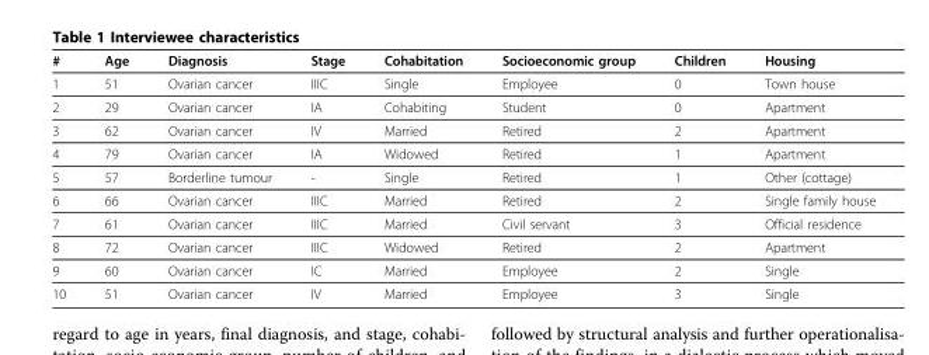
<table><thead><tr><td>#</td><td>Age</td><td>Diagnosis</td><td>Stage</td><td>Cohabitation</td><td>Socioeconomic group</td><td>Children</td><td>Housing</td></tr></thead><tbody><tr><td>1</td><td>51</td><td>Ovarian cancer</td><td>IIIC</td><td>Single</td><td>Employee</td><td>0</td><td>Town house</td></tr><tr><td>2</td><td>29</td><td>Ovarian cancer</td><td>IA</td><td>Cohabiting</td><td>Student</td><td>0</td><td>Apartment</td></tr><tr><td>3</td><td>62</td><td>Ovarian cancer</td><td>IV</td><td>Married</td><td>Retired</td><td>2</td><td>Apartment</td></tr><tr><td>4</td><td>79</td><td>Ovarian cancer</td><td>IA</td><td>Widowed</td><td>Retired</td><td>1</td><td>Apartment</td></tr><tr><td>5</td><td>57</td><td>Borderline tumour</td><td>-</td><td>Single</td><td>Retired</td><td>1</td><td>Other (cottage)</td></tr><tr><td>6</td><td>66</td><td>Ovarian cancer</td><td>IIIC</td><td>Married</td><td>Retired</td><td>2</td><td>Single family house</td></tr><tr><td>7</td><td>61</td><td>Ovarian cancer</td><td>IIIC</td><td>Married</td><td>Civil servant</td><td>3</td><td>Official residence</td></tr><tr><td>8</td><td>72</td><td>Ovarian cancer</td><td>IIIC</td><td>Widowed</td><td>Retired</td><td>2</td><td>Apartment</td></tr><tr><td>9</td><td>60</td><td>Ovarian cancer</td><td>IC</td><td>Married</td><td>Employee</td><td>2</td><td>Single</td></tr><tr><td>10</td><td>51</td><td>Ovarian cancer</td><td>IV</td><td>Married</td><td>Employee</td><td>3</td><td>Single</td></tr></tbody></table>